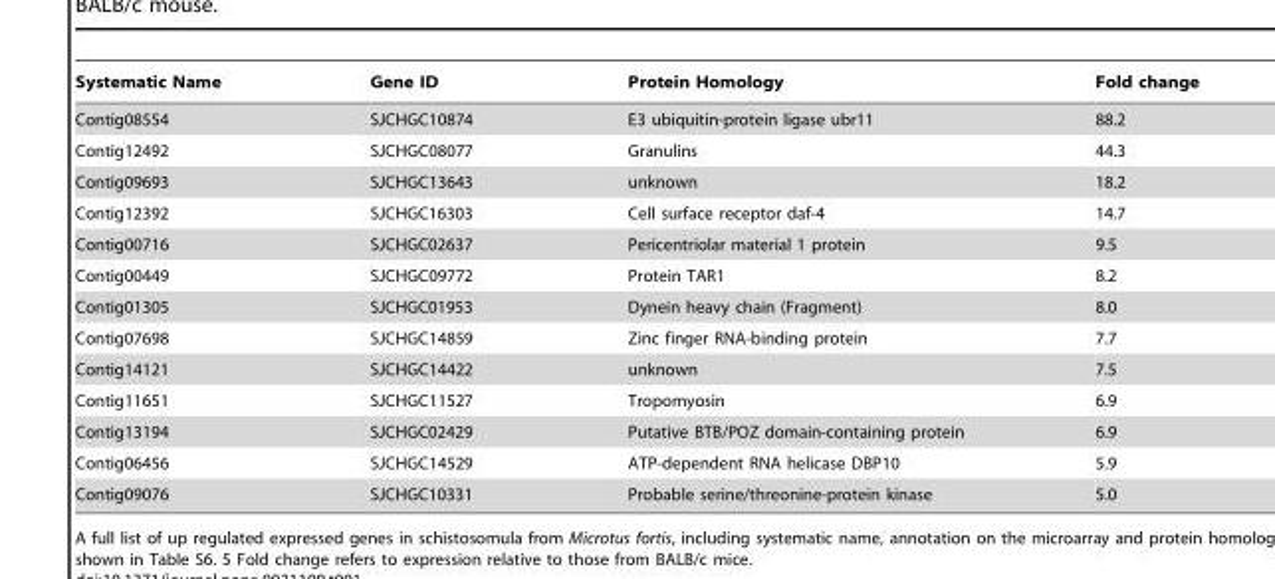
<table><thead><tr><td>Systematic Name</td><td>Gene ID</td><td>Protein Homology</td><td>Fold change</td></tr></thead><tbody><tr><td>Contig08554</td><td>SJCHGC10874</td><td>E3 ubiquitin-protein ligase ubr11</td><td>88.2</td></tr><tr><td>Contig12492</td><td>SJCHGC08077</td><td>Granulins</td><td>44.3</td></tr><tr><td>Contig09693</td><td>SJCHGC13643</td><td>unknown</td><td>18.2</td></tr><tr><td>Contig12392</td><td>SJCHGC16303</td><td>Cell surface receptor daf-4</td><td>14.7</td></tr><tr><td>Contig00716</td><td>SJCHGC02637</td><td>Pericentriolar material 1 protein</td><td>9.5</td></tr><tr><td>Contig00449</td><td>SJCHGC09772</td><td>Protein TAR1</td><td>8.2</td></tr><tr><td>Contig01305</td><td>SJCHGC01953</td><td>Dynein heavy chain (Fragment)</td><td>8.0</td></tr><tr><td>Contig07698</td><td>SJCHGC14859</td><td>Zinc finger RNA-binding protein</td><td>7.7</td></tr><tr><td>Contig14121</td><td>SJCHGC14422</td><td>unknown</td><td>7.5</td></tr><tr><td>Contig11651</td><td>SJCHGC11527</td><td>Tropomyosin</td><td>6.9</td></tr><tr><td>Contig13194</td><td>SJCHGC02429</td><td>Putative BTB/POZ domain-containing protein</td><td>6.9</td></tr><tr><td>Contig06456</td><td>SJCHGC14529</td><td>ATP-dependent RNA helicase DBP10</td><td>5.9</td></tr><tr><td>Contig09076</td><td>SJCHGC10331</td><td>Probable serine/threonine-protein kinase</td><td>5.0</td></tr></tbody></table>